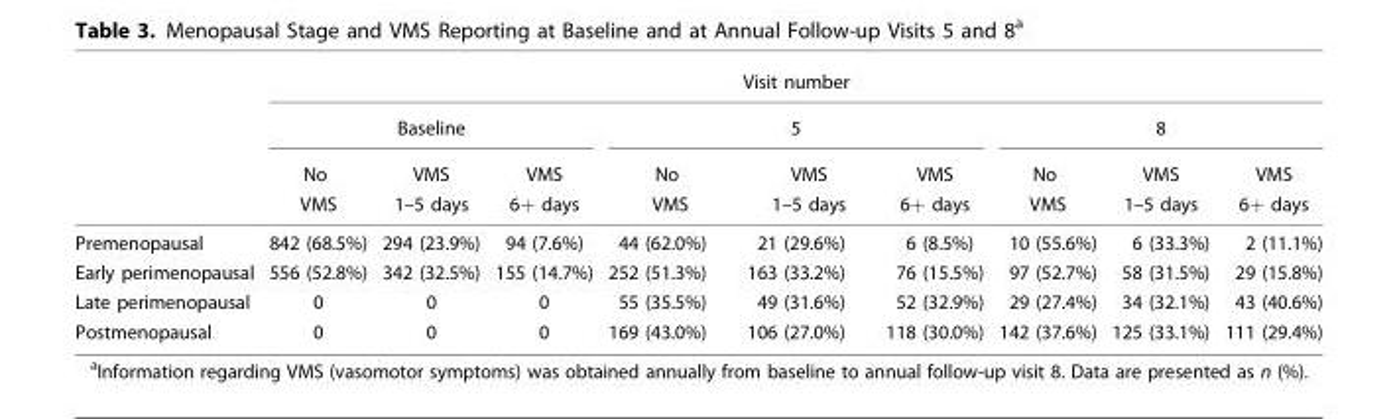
<table><thead><tr><td rowspan="3"></td><td colspan="9">Visit number</td></tr><tr><td colspan="3">Baseline</td><td colspan="3">5</td><td colspan="3">8</td></tr><tr><td>No VMS</td><td>VMS 1–5 days</td><td>VMS 6+ days</td><td>No VMS</td><td>VMS 1–5 days</td><td>VMS 6+ days</td><td>No VMS</td><td>VMS 1–5 days</td><td>VMS 6+ days</td></tr></thead><tbody><tr><td>Premenopausal</td><td>842 (68.5%)</td><td>294 (23.9%)</td><td>94 (7.6%)</td><td>44 (62.0%)</td><td>21 (29.6%)</td><td>6 (8.5%)</td><td>10 (55.6%)</td><td>6 (33.3%)</td><td>2 (11.1%)</td></tr><tr><td>Early perimenopausal</td><td>556 (52.8%)</td><td>342 (32.5%)</td><td>155 (14.7%)</td><td>252 (51.3%)</td><td>163 (33.2%)</td><td>76 (15.5%)</td><td>97 (52.7%)</td><td>58 (31.5%)</td><td>29 (15.8%)</td></tr><tr><td>Late perimenopausal</td><td>0</td><td>0</td><td>0</td><td>55 (35.5%)</td><td>49 (31.6%)</td><td>52 (32.9%)</td><td>29 (27.4%)</td><td>34 (32.1%)</td><td>43 (40.6%)</td></tr><tr><td>Postmenopausal</td><td>0</td><td>0</td><td>0</td><td>169 (43.0%)</td><td>106 (27.0%)</td><td>118 (30.0%)</td><td>142 (37.6%)</td><td>125 (33.1%)</td><td>111 (29.4%)</td></tr></tbody></table>